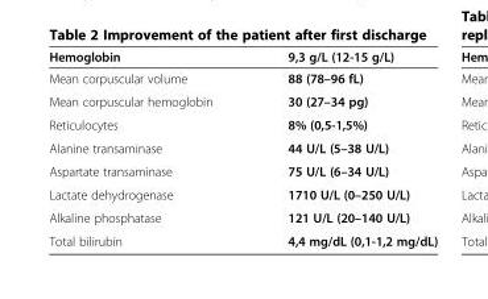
<table><thead><tr><td>Hemoglobin</td><td>9,3 g/L (12-15 g/L)</td></tr></thead><tbody><tr><td>Mean corpuscular volume</td><td>88 (78–96 fL)</td></tr><tr><td>Mean corpuscular hemoglobin</td><td>30 (27–34 pg)</td></tr><tr><td>Reticulocytes</td><td>8% (0,5-1,5%)</td></tr><tr><td>Alanine transaminase</td><td>44 U/L (5–38 U/L)</td></tr><tr><td>Aspartate transaminase</td><td>75 U/L (6–34 U/L)</td></tr><tr><td>Lactate dehydrogenase</td><td>1710 U/L (0–250 U/L)</td></tr><tr><td>Alkaline phosphatase</td><td>121 U/L (20–140 U/L)</td></tr><tr><td>Total bilirubin</td><td>4,4 mg/dL (0,1-1,2 mg/dL)</td></tr></tbody></table>